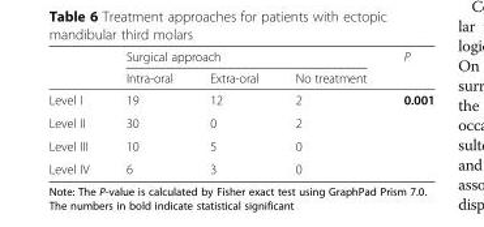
<table><thead><tr><td rowspan="2"></td><td colspan="3">Surgical approach</td><td rowspan="2">P</td></tr><tr><td>Intra-oral</td><td>Extra-oral</td><td>No treatment</td></tr></thead><tbody><tr><td>Level I</td><td>19</td><td>12</td><td>2</td><td>0.001</td></tr><tr><td>Level II</td><td>30</td><td>0</td><td>2</td><td></td></tr><tr><td>Level III</td><td>10</td><td>5</td><td>0</td><td></td></tr><tr><td>Level IV</td><td>6</td><td>3</td><td>0</td><td></td></tr></tbody></table>